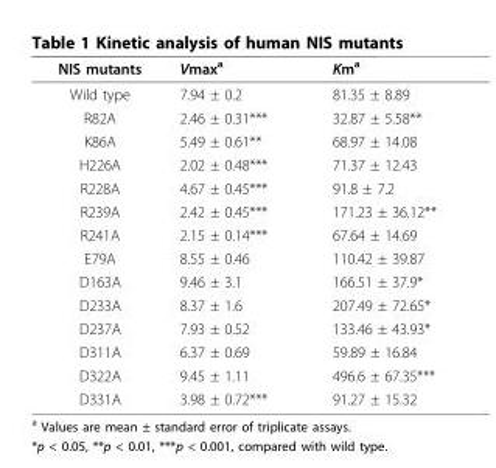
<table><thead><tr><td>NIS mutants</td><td>Vmax<sup>a</sup></td><td>Km<sup>a</sup></td></tr></thead><tbody><tr><td>Wild type</td><td>7.94 ± 0.2</td><td>81.35 ± 8.89</td></tr><tr><td>R82A</td><td>2.46 ± 0.31***</td><td>32.87 ± 5.58**</td></tr><tr><td>K86A</td><td>5.49 ± 0.61**</td><td>68.97 ± 14.08</td></tr><tr><td>H226A</td><td>2.02 ± 0.48***</td><td>71.37 ± 12.43</td></tr><tr><td>R228A</td><td>4.67 ± 0.45***</td><td>91.8 ± 7.2</td></tr><tr><td>R239A</td><td>2.42 ± 0.45***</td><td>171.23 ± 36.12**</td></tr><tr><td>R241A</td><td>2.15 ± 0.14***</td><td>67.64 ± 14.69</td></tr><tr><td>E79A</td><td>8.55 ± 0.46</td><td>110.42 ± 39.87</td></tr><tr><td>D163A</td><td>9.46 ± 3.1</td><td>166.51 ± 37.9*</td></tr><tr><td>D233A</td><td>8.37 ± 1.6</td><td>207.49 ± 72.65*</td></tr><tr><td>D237A</td><td>7.93 ± 0.52</td><td>133.46 ± 43.93*</td></tr><tr><td>D311A</td><td>6.37 ± 0.69</td><td>59.89 ± 16.84</td></tr><tr><td>D322A</td><td>9.45 ± 1.11</td><td>496.6 ± 67.35***</td></tr><tr><td>D331A</td><td>3.98 ± 0.72***</td><td>91.27 ± 15.32</td></tr></tbody></table>